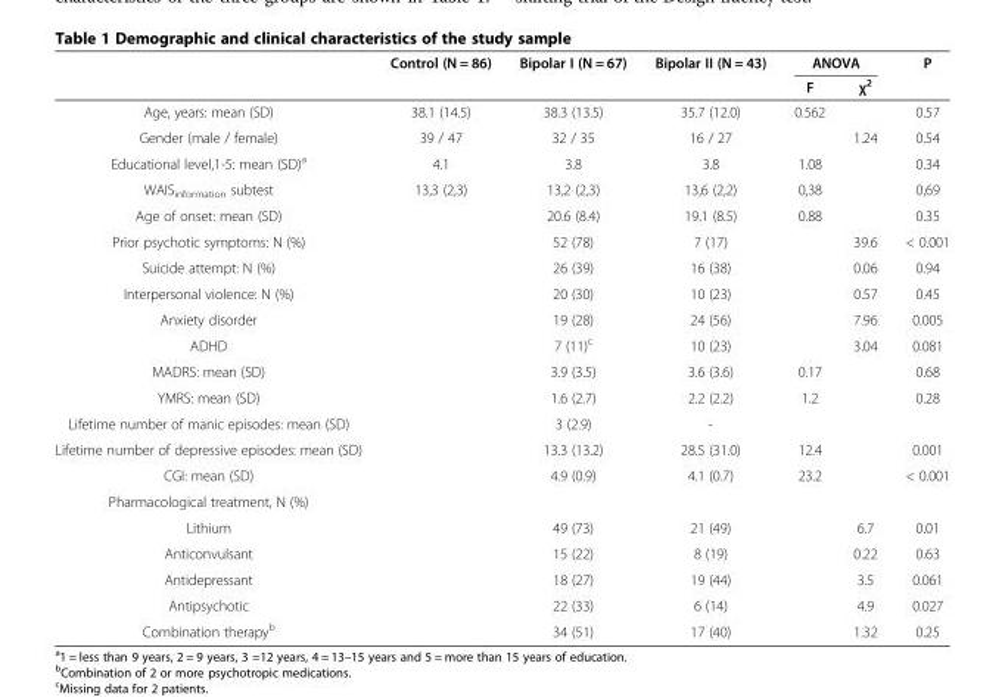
<table><thead><tr><td rowspan="2"></td><td rowspan="2">Control (N = 86)</td><td rowspan="2">Bipolar I (N = 67)</td><td rowspan="2">Bipolar II (N = 43)</td><td colspan="2">ANOVA</td><td rowspan="2">P</td></tr><tr><td>F</td><td>χ<sup>2</sup></td></tr></thead><tbody><tr><td>Age, years: mean (SD)</td><td>38.1 (14.5)</td><td>38.3 (13.5)</td><td>35.7 (12.0)</td><td>0.562</td><td></td><td>0.57</td></tr><tr><td>Gender (male / female)</td><td>39 / 47</td><td>32 / 35</td><td>16 / 27</td><td></td><td>1.24</td><td>0.54</td></tr><tr><td>Educational level,1-5: mean (SD)<sup>a</sup></td><td>4.1</td><td>3.8</td><td>3.8</td><td>1.08</td><td></td><td>0.34</td></tr><tr><td>WAIS<sub>information</sub> subtest</td><td>13,3 (2,3)</td><td>13,2 (2,3)</td><td>13,6 (2,2)</td><td>0,38</td><td></td><td>0,69</td></tr><tr><td>Age of onset: mean (SD)</td><td></td><td>20.6 (8.4)</td><td>19.1 (8.5)</td><td>0.88</td><td></td><td>0.35</td></tr><tr><td>Prior psychotic symptoms: N (%)</td><td></td><td>52 (78)</td><td>7 (17)</td><td></td><td>39.6</td><td>&lt; 0.001</td></tr><tr><td>Suicide attempt: N (%)</td><td></td><td>26 (39)</td><td>16 (38)</td><td></td><td>0.06</td><td>0.94</td></tr><tr><td>Interpersonal violence: N (%)</td><td></td><td>20 (30)</td><td>10 (23)</td><td></td><td>0.57</td><td>0.45</td></tr><tr><td>Anxiety disorder</td><td></td><td>19 (28)</td><td>24 (56)</td><td></td><td>7.96</td><td>0.005</td></tr><tr><td>ADHD</td><td></td><td>7 (11)<sup>c</sup></td><td>10 (23)</td><td></td><td>3.04</td><td>0.081</td></tr><tr><td>MADRS: mean (SD)</td><td></td><td>3.9 (3.5)</td><td>3.6 (3.6)</td><td>0.17</td><td></td><td>0.68</td></tr><tr><td>YMRS: mean (SD)</td><td></td><td>1.6 (2.7)</td><td>2.2 (2.2)</td><td>1.2</td><td></td><td>0.28</td></tr><tr><td>Lifetime number of manic episodes: mean (SD)</td><td></td><td>3 (2.9)</td><td>-</td><td></td><td></td><td></td></tr><tr><td>Lifetime number of depressive episodes: mean (SD)</td><td></td><td>13.3 (13.2)</td><td>28.5 (31.0)</td><td>12.4</td><td></td><td>0.001</td></tr><tr><td>CGI: mean (SD)</td><td></td><td>4.9 (0.9)</td><td>4.1 (0.7)</td><td>23.2</td><td></td><td>&lt; 0.001</td></tr><tr><td colspan="7">Pharmacological treatment, N (%)</td></tr><tr><td>Lithium</td><td></td><td>49 (73)</td><td>21 (49)</td><td></td><td>6.7</td><td>0.01</td></tr><tr><td>Anticonvulsant</td><td></td><td>15 (22)</td><td>8 (19)</td><td></td><td>0.22</td><td>0.63</td></tr><tr><td>Antidepressant</td><td></td><td>18 (27)</td><td>19 (44)</td><td></td><td>3.5</td><td>0.061</td></tr><tr><td>Antipsychotic</td><td></td><td>22 (33)</td><td>6 (14)</td><td></td><td>4.9</td><td>0.027</td></tr><tr><td>Combination therapy<sup>b</sup></td><td></td><td>34 (51)</td><td>17 (40)</td><td></td><td>1.32</td><td>0.25</td></tr></tbody></table>